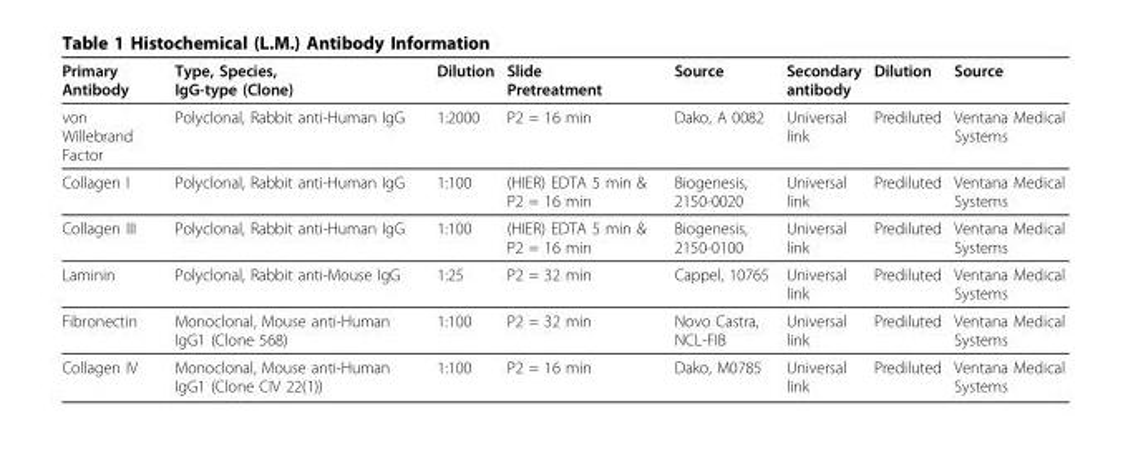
<table><thead><tr><td>Primary Antibody</td><td>Type, Species, IgG-type (Clone)</td><td>Dilution</td><td>Slide Pretreatment</td><td>Source</td><td>Secondary antibody</td><td>Dilution</td><td>Source</td></tr></thead><tbody><tr><td>von Willebrand Factor</td><td>Polyclonal, Rabbit anti-Human IgG</td><td>1:2000</td><td>P2 = 16 min</td><td>Dako, A 0082</td><td>Universal link</td><td>Prediluted</td><td>Ventana Medical Systems</td></tr><tr><td>Collagen I</td><td>Polyclonal, Rabbit anti-Human IgG</td><td>1:100</td><td>(HIER) EDTA 5 min &amp; P2 = 16 min</td><td>Biogenesis, 2150-0020</td><td>Universal link</td><td>Prediluted</td><td>Ventana Medical Systems</td></tr><tr><td>Collagen III</td><td>Polyclonal, Rabbit anti-Human IgG</td><td>1:100</td><td>(HIER) EDTA 5 min &amp; P2 = 16 min</td><td>Biogenesis, 2150-0100</td><td>Universal link</td><td>Prediluted</td><td>Ventana Medical Systems</td></tr><tr><td>Laminin</td><td>Polyclonal, Rabbit anti-Mouse IgG</td><td>1:25</td><td>P2 = 32 min</td><td>Cappel, 10765</td><td>Universal link</td><td>Prediluted</td><td>Ventana Medical Systems</td></tr><tr><td>Fibronectin</td><td>Monoclonal, Mouse anti-Human IgG1 (Clone 568)</td><td>1:100</td><td>P2 = 32 min</td><td>Novo Castra, NCL-FIB</td><td>Universal link</td><td>Prediluted</td><td>Ventana Medical Systems</td></tr><tr><td>Collagen IV</td><td>Monoclonal, Mouse anti-Human IgG1 (Clone CIV 22(1))</td><td>1:100</td><td>P2 = 16 min</td><td>Dako, M0785</td><td>Universal link</td><td>Prediluted</td><td>Ventana Medical Systems</td></tr></tbody></table>